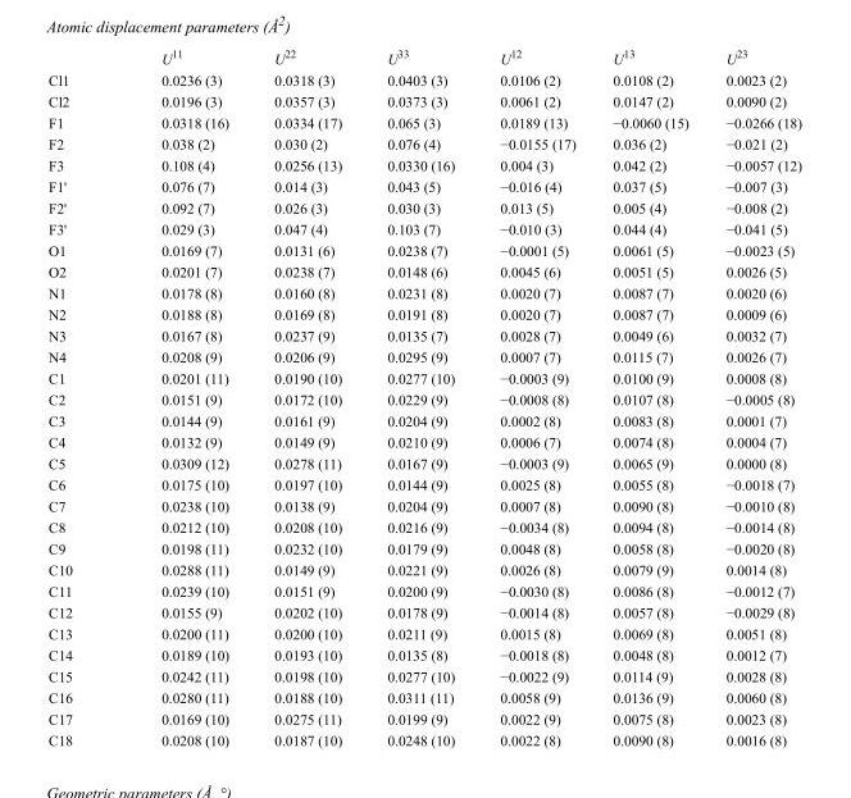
<table><thead><tr><td></td><td>U<sup>11</sup></td><td>U<sup>22</sup></td><td>U<sup>33</sup></td><td>U<sup>12</sup></td><td>U<sup>13</sup></td><td>U<sup>23</sup></td></tr></thead><tbody><tr><td>Cl1</td><td>0.0236 (3)</td><td>0.0318 (3)</td><td>0.0403 (3)</td><td>0.0106 (2)</td><td>0.0108 (2)</td><td>0.0023 (2)</td></tr><tr><td>Cl2</td><td>0.0196 (3)</td><td>0.0357 (3)</td><td>0.0373 (3)</td><td>0.0061 (2)</td><td>0.0147 (2)</td><td>0.0090 (2)</td></tr><tr><td>F1</td><td>0.0318 (16)</td><td>0.0334 (17)</td><td>0.065 (3)</td><td>0.0189 (13)</td><td>−0.0060 (15)</td><td>−0.0266 (18)</td></tr><tr><td>F2</td><td>0.038 (2)</td><td>0.030 (2)</td><td>0.076 (4)</td><td>−0.0155 (17)</td><td>0.036 (2)</td><td>−0.021 (2)</td></tr><tr><td>F3</td><td>0.108 (4)</td><td>0.0256 (13)</td><td>0.0330 (16)</td><td>0.004 (3)</td><td>0.042 (2)</td><td>−0.0057 (12)</td></tr><tr><td>F1&#x27;</td><td>0.076 (7)</td><td>0.014 (3)</td><td>0.043 (5)</td><td>−0.016 (4)</td><td>0.037 (5)</td><td>−0.007 (3)</td></tr><tr><td>F2&#x27;</td><td>0.092 (7)</td><td>0.026 (3)</td><td>0.030 (3)</td><td>0.013 (5)</td><td>0.005 (4)</td><td>−0.008 (2)</td></tr><tr><td>F3&#x27;</td><td>0.029 (3)</td><td>0.047 (4)</td><td>0.103 (7)</td><td>−0.010 (3)</td><td>0.044 (4)</td><td>−0.041 (5)</td></tr><tr><td>O1</td><td>0.0169 (7)</td><td>0.0131 (6)</td><td>0.0238 (7)</td><td>−0.0001 (5)</td><td>0.0061 (5)</td><td>−0.0023 (5)</td></tr><tr><td>O2</td><td>0.0201 (7)</td><td>0.0238 (7)</td><td>0.0148 (6)</td><td>0.0045 (6)</td><td>0.0051 (5)</td><td>0.0026 (5)</td></tr><tr><td>N1</td><td>0.0178 (8)</td><td>0.0160 (8)</td><td>0.0231 (8)</td><td>0.0020 (7)</td><td>0.0087 (7)</td><td>0.0020 (6)</td></tr><tr><td>N2</td><td>0.0188 (8)</td><td>0.0169 (8)</td><td>0.0191 (8)</td><td>0.0020 (7)</td><td>0.0087 (7)</td><td>0.0009 (6)</td></tr><tr><td>N3</td><td>0.0167 (8)</td><td>0.0237 (9)</td><td>0.0135 (7)</td><td>0.0028 (7)</td><td>0.0049 (6)</td><td>0.0032 (7)</td></tr><tr><td>N4</td><td>0.0208 (9)</td><td>0.0206 (9)</td><td>0.0295 (9)</td><td>0.0007 (7)</td><td>0.0115 (7)</td><td>0.0026 (7)</td></tr><tr><td>C1</td><td>0.0201 (11)</td><td>0.0190 (10)</td><td>0.0277 (10)</td><td>−0.0003 (9)</td><td>0.0100 (9)</td><td>0.0008 (8)</td></tr><tr><td>C2</td><td>0.0151 (9)</td><td>0.0172 (10)</td><td>0.0229 (9)</td><td>−0.0008 (8)</td><td>0.0107 (8)</td><td>−0.0005 (8)</td></tr><tr><td>C3</td><td>0.0144 (9)</td><td>0.0161 (9)</td><td>0.0204 (9)</td><td>0.0002 (8)</td><td>0.0083 (8)</td><td>0.0001 (7)</td></tr><tr><td>C4</td><td>0.0132 (9)</td><td>0.0149 (9)</td><td>0.0210 (9)</td><td>0.0006 (7)</td><td>0.0074 (8)</td><td>0.0004 (7)</td></tr><tr><td>C5</td><td>0.0309 (12)</td><td>0.0278 (11)</td><td>0.0167 (9)</td><td>−0.0003 (9)</td><td>0.0065 (9)</td><td>0.0000 (8)</td></tr><tr><td>C6</td><td>0.0175 (10)</td><td>0.0197 (10)</td><td>0.0144 (9)</td><td>0.0025 (8)</td><td>0.0055 (8)</td><td>−0.0018 (7)</td></tr><tr><td>C7</td><td>0.0238 (10)</td><td>0.0138 (9)</td><td>0.0204 (9)</td><td>0.0007 (8)</td><td>0.0090 (8)</td><td>−0.0010 (8)</td></tr><tr><td>C8</td><td>0.0212 (10)</td><td>0.0208 (10)</td><td>0.0216 (9)</td><td>−0.0034 (8)</td><td>0.0094 (8)</td><td>−0.0014 (8)</td></tr><tr><td>C9</td><td>0.0198 (11)</td><td>0.0232 (10)</td><td>0.0179 (9)</td><td>0.0048 (8)</td><td>0.0058 (8)</td><td>−0.0020 (8)</td></tr><tr><td>C10</td><td>0.0288 (11)</td><td>0.0149 (9)</td><td>0.0221 (9)</td><td>0.0026 (8)</td><td>0.0079 (9)</td><td>0.0014 (8)</td></tr><tr><td>C11</td><td>0.0239 (10)</td><td>0.0151 (9)</td><td>0.0200 (9)</td><td>−0.0030 (8)</td><td>0.0086 (8)</td><td>−0.0012 (7)</td></tr><tr><td>C12</td><td>0.0155 (9)</td><td>0.0202 (10)</td><td>0.0178 (9)</td><td>−0.0014 (8)</td><td>0.0057 (8)</td><td>−0.0029 (8)</td></tr><tr><td>C13</td><td>0.0200 (11)</td><td>0.0200 (10)</td><td>0.0211 (9)</td><td>0.0015 (8)</td><td>0.0069 (8)</td><td>0.0051 (8)</td></tr><tr><td>C14</td><td>0.0189 (10)</td><td>0.0193 (10)</td><td>0.0135 (8)</td><td>−0.0018 (8)</td><td>0.0048 (8)</td><td>0.0012 (7)</td></tr><tr><td>C15</td><td>0.0242 (11)</td><td>0.0198 (10)</td><td>0.0277 (10)</td><td>−0.0022 (9)</td><td>0.0114 (9)</td><td>0.0028 (8)</td></tr><tr><td>C16</td><td>0.0280 (11)</td><td>0.0188 (10)</td><td>0.0311 (11)</td><td>0.0058 (9)</td><td>0.0136 (9)</td><td>0.0060 (8)</td></tr><tr><td>C17</td><td>0.0169 (10)</td><td>0.0275 (11)</td><td>0.0199 (9)</td><td>0.0022 (9)</td><td>0.0075 (8)</td><td>0.0023 (8)</td></tr><tr><td>C18</td><td>0.0208 (10)</td><td>0.0187 (10)</td><td>0.0248 (10)</td><td>0.0022 (8)</td><td>0.0090 (8)</td><td>0.0016 (8)</td></tr></tbody></table>